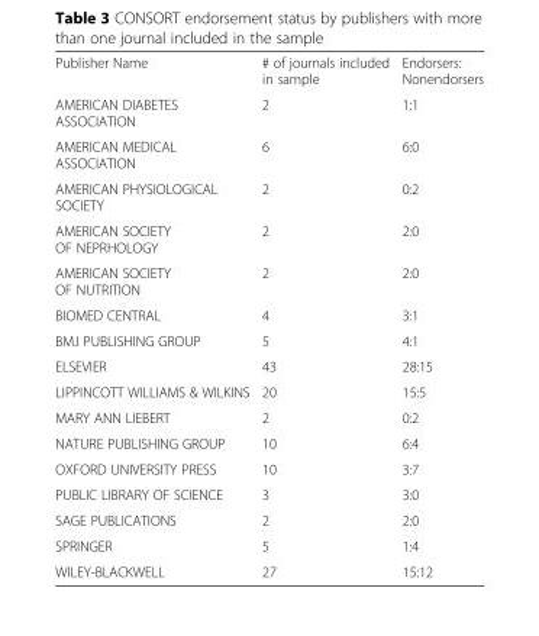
<table><tbody><tr><td>Publisher Name</td><td># of journals included in sample</td><td>Endorsers: Nonendorsers</td></tr><tr><td>AMERICAN DIABETES ASSOCIATION</td><td>2</td><td>1:1</td></tr><tr><td>AMERICAN MEDICAL ASSOCIATION</td><td>6</td><td>6:0</td></tr><tr><td>AMERICAN PHYSIOLOGICAL SOCIETY</td><td>2</td><td>0:2</td></tr><tr><td>AMERICAN SOCIETY OF NEPRHOLOGY</td><td>2</td><td>2:0</td></tr><tr><td>AMERICAN SOCIETY OF NUTRITION</td><td>2</td><td>2:0</td></tr><tr><td>BIOMED CENTRAL</td><td>4</td><td>3:1</td></tr><tr><td>BMJ PUBLISHING GROUP</td><td>5</td><td>4:1</td></tr><tr><td>ELSEVIER</td><td>43</td><td>28:15</td></tr><tr><td>LIPPINCOTT WILLIAMS &amp; WILKINS</td><td>20</td><td>15:5</td></tr><tr><td>MARY ANN LIEBERT</td><td>2</td><td>0:2</td></tr><tr><td>NATURE PUBLISHING GROUP</td><td>10</td><td>6:4</td></tr><tr><td>OXFORD UNIVERSITY PRESS</td><td>10</td><td>3:7</td></tr><tr><td>PUBLIC LIBRARY OF SCIENCE</td><td>3</td><td>3:0</td></tr><tr><td>SAGE PUBLICATIONS</td><td>2</td><td>2:0</td></tr><tr><td>SPRINGER</td><td>5</td><td>1:4</td></tr><tr><td>WILEY-BLACKWELL</td><td>27</td><td>15:12</td></tr></tbody></table>